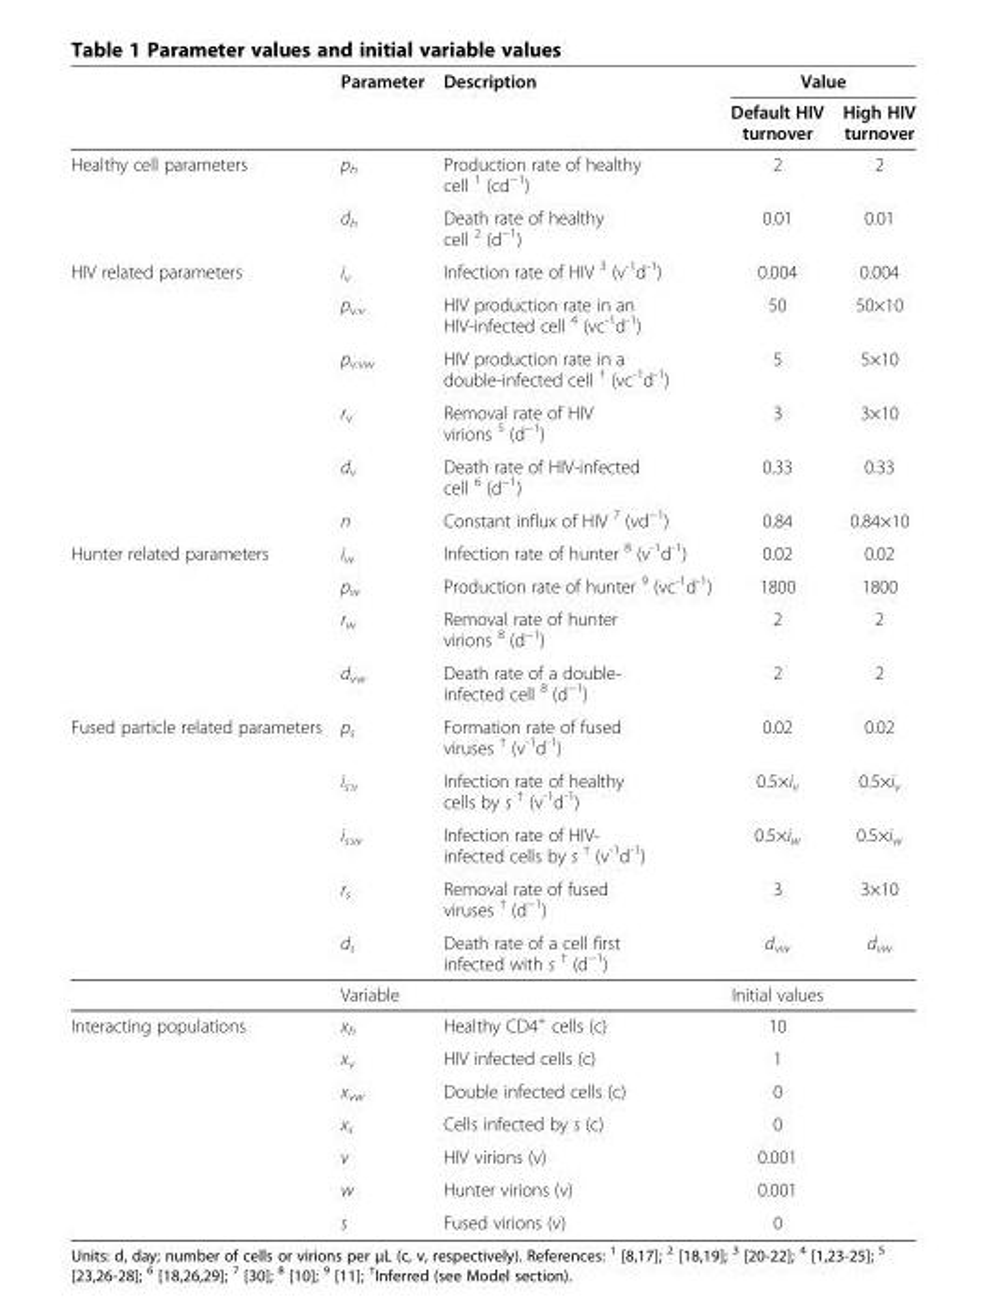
<table><thead><tr><td rowspan="2"></td><td rowspan="2">Parameter</td><td rowspan="2">Description</td><td colspan="2">Value</td></tr><tr><td>Default HIV turnover</td><td>High HIV turnover</td></tr></thead><tbody><tr><td rowspan="2">Healthy cell parameters</td><td>p<sub>h</sub></td><td>Production rate of healthy cell <sup>1</sup> (cd<sup>−1</sup>)</td><td>2</td><td>2</td></tr><tr><td>d<sub>h</sub></td><td>Death rate of healthy cell <sup>2</sup> (d<sup>−1</sup>)</td><td>0.01</td><td>0.01</td></tr><tr><td rowspan="6">HIV related parameters</td><td>i<sub>v</sub></td><td>Infection rate of HIV <sup>3</sup> (v<sup>-1</sup>d<sup>-1</sup>)</td><td>0.004</td><td>0.004</td></tr><tr><td>p<sub>v:v</sub></td><td>HIV production rate in an HIV-infected cell <sup>4</sup> (vc<sup>-1</sup>d<sup>-1</sup>)</td><td>50</td><td>50×10</td></tr><tr><td>p<sub>v:vw</sub></td><td>HIV production rate in a double-infected cell <sup>†</sup> (vc<sup>-1</sup>d<sup>-1</sup>)</td><td>5</td><td>5×10</td></tr><tr><td>r<sub>v</sub></td><td>Removal rate of HIV virions <sup>5</sup> (d<sup>−1</sup>)</td><td>3</td><td>3×10</td></tr><tr><td>d<sub>v</sub></td><td>Death rate of HIV-infected cell <sup>6</sup> (d<sup>−1</sup>)</td><td>0.33</td><td>0.33</td></tr><tr><td>n</td><td>Constant influx of HIV <sup>7</sup> (vd<sup>−1</sup>)</td><td>0.84</td><td>0.84×10</td></tr><tr><td rowspan="4">Hunter related parameters</td><td>i<sub>w</sub></td><td>Infection rate of hunter <sup>8</sup> (v<sup>-1</sup>d<sup>-1</sup>)</td><td>0.02</td><td>0.02</td></tr><tr><td>p<sub>w</sub></td><td>Production rate of hunter <sup>9</sup> (vc<sup>-1</sup>d<sup>-1</sup>)</td><td>1800</td><td>1800</td></tr><tr><td>r<sub>w</sub></td><td>Removal rate of hunter virions <sup>8</sup> (d<sup>−1</sup>)</td><td>2</td><td>2</td></tr><tr><td>d<sub>vw</sub></td><td>Death rate of a double- infected cell <sup>8</sup> (d<sup>−1</sup>)</td><td>2</td><td>2</td></tr><tr><td rowspan="6">Fused particle related parameters</td><td>p<sub>s</sub></td><td>Formation rate of fused viruses <sup>†</sup> (v<sup>-1</sup>d<sup>-1</sup>)</td><td>0.02</td><td>0.02</td></tr><tr><td>i<sub>s:v</sub></td><td>Infection rate of healthy cells by s <sup>†</sup> (v<sup>-1</sup>d<sup>-1</sup>)</td><td>0.5×i<sub>v</sub></td><td>0.5×i<sub>v</sub></td></tr><tr><td>i<sub>s:w</sub></td><td>Infection rate of HIV- infected cells by s <sup>†</sup> (v<sup>-1</sup>d<sup>-1</sup>)</td><td>0.5×i<sub>w</sub></td><td>0.5×i<sub>w</sub></td></tr><tr><td>r<sub>s</sub></td><td>Removal rate of fused viruses <sup>†</sup> (d<sup>−1</sup>)</td><td>3</td><td>3×10</td></tr><tr><td>d<sub>s</sub></td><td>Death rate of a cell first infected with s <sup>†</sup> (d<sup>−1</sup>)</td><td>d<sub>vw</sub></td><td>d<sub>vw</sub></td></tr><tr><td>Variable</td><td></td><td>Initial values</td><td></td></tr><tr><td rowspan="7">Interacting populations</td><td>x<sub>h</sub></td><td>Healthy CD4<sup>+</sup> cells (c)</td><td>10</td><td></td></tr><tr><td>x<sub>v</sub></td><td>HIV infected cells (c)</td><td>1</td><td></td></tr><tr><td>x<sub>vw</sub></td><td>Double infected cells (c)</td><td>0</td><td></td></tr><tr><td>x<sub>s</sub></td><td>Cells infected by s (c)</td><td>0</td><td></td></tr><tr><td>v</td><td>HIV virions (v)</td><td>0.001</td><td></td></tr><tr><td>w</td><td>Hunter virions (v)</td><td>0.001</td><td></td></tr><tr><td>s</td><td>Fused virions (v)</td><td>0</td><td></td></tr></tbody></table>